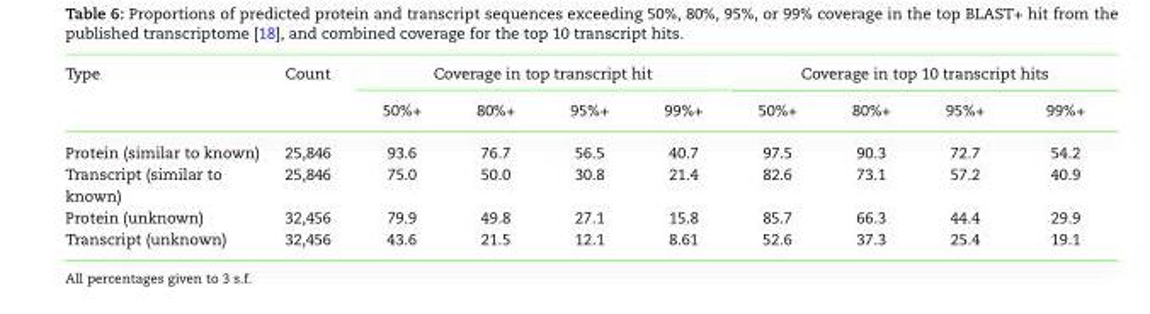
<table><thead><tr><td rowspan="2">Type</td><td rowspan="2">Count</td><td colspan="4">Coverage in top transcript hit</td><td colspan="4">Coverage in top 10 transcript hits</td></tr><tr><td>50%+</td><td>80%+</td><td>95%+</td><td>99%+</td><td>50%+</td><td>80%+</td><td>95%+</td><td>99%+</td></tr></thead><tbody><tr><td>Protein (similar to known)</td><td>25,846</td><td>93.6</td><td>76.7</td><td>56.5</td><td>40.7</td><td>97.5</td><td>90.3</td><td>72.7</td><td>54.2</td></tr><tr><td>Transcript (similar to known)</td><td>25,846</td><td>75.0</td><td>50.0</td><td>30.8</td><td>21.4</td><td>82.6</td><td>73.1</td><td>57.2</td><td>40.9</td></tr><tr><td>Protein (unknown)</td><td>32,456</td><td>79.9</td><td>49.8</td><td>27.1</td><td>15.8</td><td>85.7</td><td>66.3</td><td>44.4</td><td>29.9</td></tr><tr><td>Transcript (unknown)</td><td>32,456</td><td>43.6</td><td>21.5</td><td>12.1</td><td>8.61</td><td>52.6</td><td>37.3</td><td>25.4</td><td>19.1</td></tr></tbody></table>